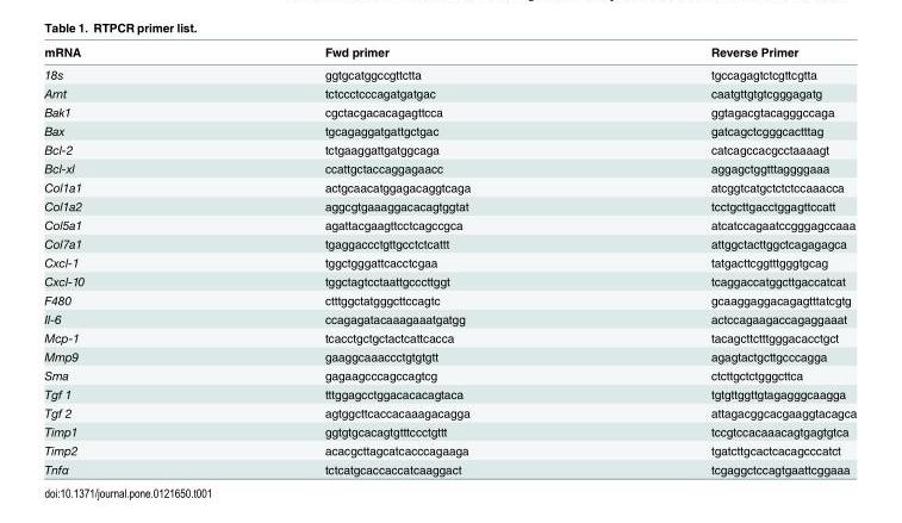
<table><thead><tr><td>mRNA</td><td>Fwd primer</td><td>Reverse Primer</td></tr></thead><tbody><tr><td>18s</td><td>ggtgcatggccgttctta</td><td>tgccagagtctcgttcgtta</td></tr><tr><td>Arnt</td><td>tctccctcccagatgatgac</td><td>caatgttgtgtcgggagatg</td></tr><tr><td>Bak1</td><td>cgctacgacacagagttcca</td><td>ggtagacgtacagggccaga</td></tr><tr><td>Bax</td><td>tgcagaggatgattgctgac</td><td>gatcagctcgggcactttag</td></tr><tr><td>Bcl-2</td><td>tctgaaggattgatggcaga</td><td>catcagccacgcctaaaagt</td></tr><tr><td>Bcl-xl</td><td>ccattgctaccaggagaacc</td><td>aggagctggtttaggggaaa</td></tr><tr><td>Col1a1</td><td>actgcaacatggagacaggtcaga</td><td>atcggtcatgctctctccaaacca</td></tr><tr><td>Col1a2</td><td>aggcgtgaaaggacacagtggtat</td><td>tcctgcttgacctggagttccatt</td></tr><tr><td>Col5a1</td><td>agattacgaagttcctcagccgca</td><td>atcatccagaatccgggagccaaa</td></tr><tr><td>Col7a1</td><td>tgaggaccctgttgcctctcattt</td><td>attggctacttggctcagagagca</td></tr><tr><td>Cxcl-1</td><td>tggctgggattcacctcgaa</td><td>tatgacttcggtttgggtgcag</td></tr><tr><td>Cxcl-10</td><td>tggctagtcctaattgcccttggt</td><td>tcaggaccatggcttgaccatcat</td></tr><tr><td>F480</td><td>ctttggctatgggcttccagtc</td><td>gcaaggaggacagagtttatcgtg</td></tr><tr><td>Il-6</td><td>ccagagatacaaagaaatgatgg</td><td>actccagaagaccagaggaaat</td></tr><tr><td>Mcp-1</td><td>tcacctgctgctactcattcacca</td><td>tacagcttctttgggacacctgct</td></tr><tr><td>Mmp9</td><td>gaaggcaaaccctgtgtgtt</td><td>agagtactgcttgcccagga</td></tr><tr><td>Sma</td><td>gagaagcccagccagtcg</td><td>ctcttgctctgggcttca</td></tr><tr><td>Tgfϐ1</td><td>tttggagcctggacacacagtaca</td><td>tgtgttggttgtagagggcaagga</td></tr><tr><td>Tgfϐ2</td><td>agtggcttcaccacaaagacagga</td><td>attagacggcacgaaggtacagca</td></tr><tr><td>Timp1</td><td>ggtgtgcacagtgtttccctgttt</td><td>tccgtccacaaacagtgagtgtca</td></tr><tr><td>Timp2</td><td>acacgcttagcatcacccagaaga</td><td>tgatcttgcactcacagcccatct</td></tr><tr><td>Tnfα</td><td>tctcatgcaccaccatcaaggact</td><td>tcgaggctccagtgaattcggaaa</td></tr></tbody></table>